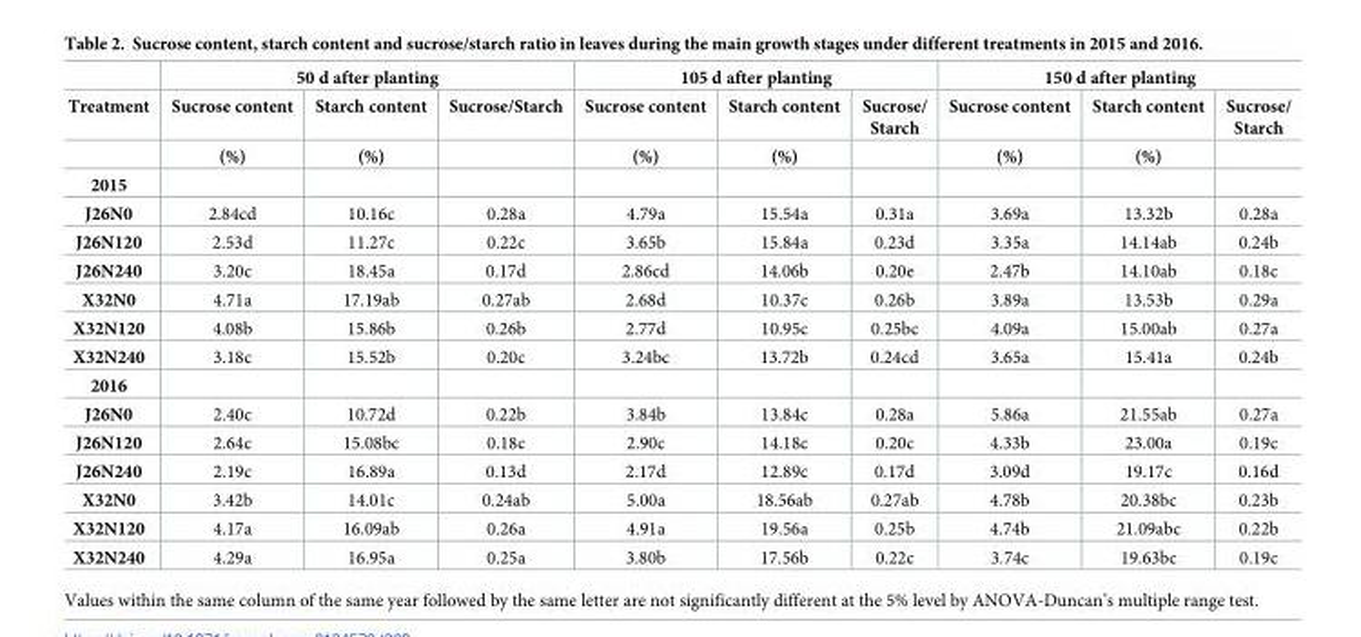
<table><thead><tr><td rowspan="3">Treatment</td><td colspan="3">50 d after planting</td><td colspan="3">105 d after planting</td><td colspan="3">150 d after planting</td></tr><tr><td rowspan="2">Sucrose content (%)</td><td rowspan="2">Starch content (%)</td><td rowspan="2">Sucrose/Starch</td><td rowspan="2">Sucrose content (%)</td><td rowspan="2">Starch content (%)</td><td rowspan="2">Sucrose/ Starch</td><td rowspan="2">Sucrose content (%)</td><td rowspan="2">Starch content (%)</td><td rowspan="2">Sucrose/ Starch</td></tr><tr></tr></thead><tbody><tr><td colspan="10">2015</td></tr><tr><td>J26N0</td><td>2.84cd</td><td>10.16c</td><td>0.28a</td><td>4.79a</td><td>15.54a</td><td>0.31a</td><td>3.69a</td><td>13.32b</td><td>0.28a</td></tr><tr><td>J26N120</td><td>2.53d</td><td>11.27c</td><td>0.22c</td><td>3.65b</td><td>15.84a</td><td>0.23d</td><td>3.35a</td><td>14.14ab</td><td>0.24b</td></tr><tr><td>J26N240</td><td>3.20c</td><td>18.45a</td><td>0.17d</td><td>2.86cd</td><td>14.06b</td><td>0.20e</td><td>2.47b</td><td>14.10ab</td><td>0.18c</td></tr><tr><td>X32N0</td><td>4.71a</td><td>17.19ab</td><td>0.27ab</td><td>2.68d</td><td>10.37c</td><td>0.26b</td><td>3.89a</td><td>13.53b</td><td>0.29a</td></tr><tr><td>X32N120</td><td>4.08b</td><td>15.86b</td><td>0.26b</td><td>2.77d</td><td>10.95c</td><td>0.25bc</td><td>4.09a</td><td>15.00ab</td><td>0.27a</td></tr><tr><td>X32N240</td><td>3.18c</td><td>15.52b</td><td>0.20c</td><td>3.24bc</td><td>13.72b</td><td>0.24cd</td><td>3.65a</td><td>15.41a</td><td>0.24b</td></tr><tr><td colspan="10">2016</td></tr><tr><td>J26N0</td><td>2.40c</td><td>10.72d</td><td>0.22b</td><td>3.84b</td><td>13.84c</td><td>0.28a</td><td>5.86a</td><td>21.55ab</td><td>0.27a</td></tr><tr><td>J26N120</td><td>2.64c</td><td>15.08bc</td><td>0.18c</td><td>2.90c</td><td>14.18c</td><td>0.20c</td><td>4.33b</td><td>23.00a</td><td>0.19c</td></tr><tr><td>J26N240</td><td>2.19c</td><td>16.89a</td><td>0.13d</td><td>2.17d</td><td>12.89c</td><td>0.17d</td><td>3.09d</td><td>19.17c</td><td>0.16d</td></tr><tr><td>X32N0</td><td>3.42b</td><td>14.01c</td><td>0.24ab</td><td>5.00a</td><td>18.56ab</td><td>0.27ab</td><td>4.78b</td><td>20.38bc</td><td>0.23b</td></tr><tr><td>X32N120</td><td>4.17a</td><td>16.09ab</td><td>0.26a</td><td>4.91a</td><td>19.56a</td><td>0.25b</td><td>4.74b</td><td>21.09abc</td><td>0.22b</td></tr><tr><td>X32N240</td><td>4.29a</td><td>16.95a</td><td>0.25a</td><td>3.80b</td><td>17.56b</td><td>0.22c</td><td>3.74c</td><td>19.63bc</td><td>0.19c</td></tr></tbody></table>